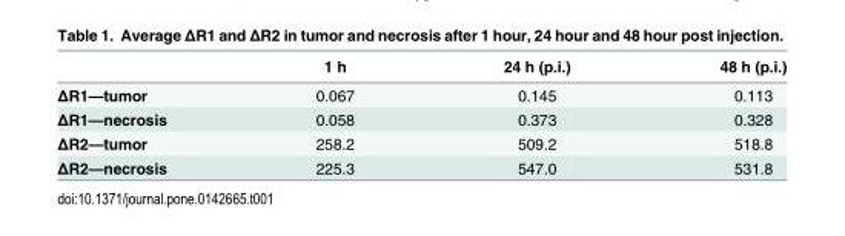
<table><thead><tr><td></td><td>1 h</td><td>24 h (p.i.)</td><td>48 h (p.i.)</td></tr></thead><tbody><tr><td>ΔR1—tumor</td><td>0.067</td><td>0.145</td><td>0.113</td></tr><tr><td>ΔR1—necrosis</td><td>0.058</td><td>0.373</td><td>0.328</td></tr><tr><td>ΔR2—tumor</td><td>258.2</td><td>509.2</td><td>518.8</td></tr><tr><td>ΔR2—necrosis</td><td>225.3</td><td>547.0</td><td>531.8</td></tr></tbody></table>